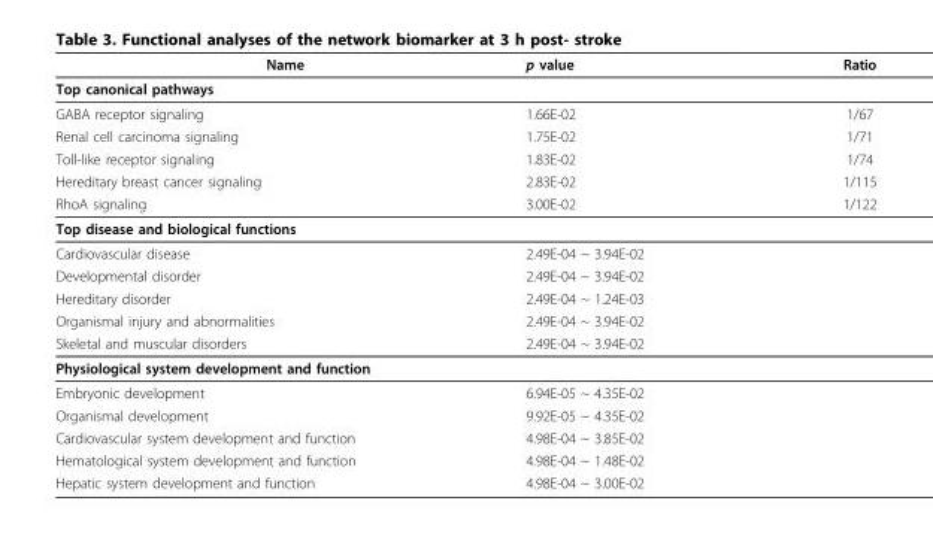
<table><thead><tr><td>Name</td><td>p value</td><td>Ratio</td></tr></thead><tbody><tr><td colspan="3">Top canonical pathways</td></tr><tr><td>GABA receptor signaling</td><td>1.66E-02</td><td>1/67</td></tr><tr><td>Renal cell carcinoma signaling</td><td>1.75E-02</td><td>1/71</td></tr><tr><td>Toll-like receptor signaling</td><td>1.83E-02</td><td>1/74</td></tr><tr><td>Hereditary breast cancer signaling</td><td>2.83E-02</td><td>1/115</td></tr><tr><td>RhoA signaling</td><td>3.00E-02</td><td>1/122</td></tr><tr><td colspan="3">Top disease and biological functions</td></tr><tr><td>Cardiovascular disease</td><td colspan="2">2.49E-04 ~ 3.94E-02</td></tr><tr><td>Developmental disorder</td><td colspan="2">2.49E-04 ~ 3.94E-02</td></tr><tr><td>Hereditary disorder</td><td colspan="2">2.49E-04 ~ 1.24E-03</td></tr><tr><td>Organismal injury and abnormalities</td><td colspan="2">2.49E-04 ~ 3.94E-02</td></tr><tr><td>Skeletal and muscular disorders</td><td colspan="2">2.49E-04 ~ 3.94E-02</td></tr><tr><td colspan="3">Physiological system development and function</td></tr><tr><td>Embryonic development</td><td colspan="2">6.94E-05 ~ 4.35E-02</td></tr><tr><td>Organismal development</td><td colspan="2">9.92E-05 ~ 4.35E-02</td></tr><tr><td>Cardiovascular system development and function</td><td colspan="2">4.98E-04 ~ 3.85E-02</td></tr><tr><td>Hematological system development and function</td><td colspan="2">4.98E-04 ~ 1.48E-02</td></tr><tr><td>Hepatic system development and function</td><td colspan="2">4.98E-04 ~ 3.00E-02</td></tr></tbody></table>